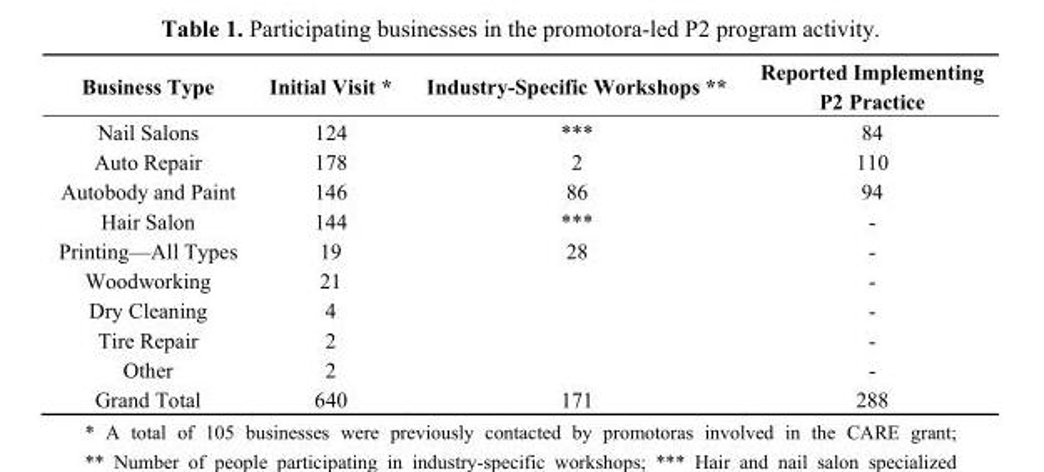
<table><thead><tr><td>Business Type</td><td>Initial Visit *</td><td>Industry-Specific Workshops **</td><td>Reported Implementing P2 Practice</td></tr></thead><tbody><tr><td>Nail Salons</td><td>124</td><td>***</td><td>84</td></tr><tr><td>Auto Repair</td><td>178</td><td>2</td><td>110</td></tr><tr><td>Autobody and Paint</td><td>146</td><td>86</td><td>94</td></tr><tr><td>Hair Salon</td><td>144</td><td>***</td><td>-</td></tr><tr><td>Printing—All Types</td><td>19</td><td>28</td><td>-</td></tr><tr><td>Woodworking</td><td>21</td><td></td><td>-</td></tr><tr><td>Dry Cleaning</td><td>4</td><td></td><td>-</td></tr><tr><td>Tire Repair</td><td>2</td><td></td><td>-</td></tr><tr><td>Other</td><td>2</td><td></td><td>-</td></tr><tr><td>Grand Total</td><td>640</td><td>171</td><td>288</td></tr></tbody></table>